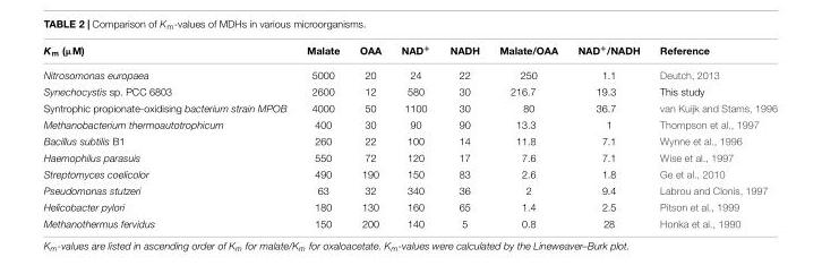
<table><thead><tr><td>K<sub>m</sub> (µM)</td><td>Malate</td><td>OAA</td><td>NAD<sup>+</sup></td><td>NADH</td><td>Malate/OAA</td><td>NAD<sup>+</sup>/NADH</td><td>Reference</td></tr></thead><tbody><tr><td>Nitrosomonas europaea</td><td>5000</td><td>20</td><td>24</td><td>22</td><td>250</td><td>1.1</td><td>Deutch, 2013</td></tr><tr><td>Synechocystis sp. PCC 6803</td><td>2600</td><td>12</td><td>580</td><td>30</td><td>216.7</td><td>19.3</td><td>This study</td></tr><tr><td>Syntrophic propionate-oxidising bacterium strain MPOB</td><td>4000</td><td>50</td><td>1100</td><td>30</td><td>80</td><td>36.7</td><td>van Kuijk and Stams, 1996</td></tr><tr><td>Methanobacterium thermoautotrophicum</td><td>400</td><td>30</td><td>90</td><td>90</td><td>13.3</td><td>1</td><td>Thompson et al., 1997</td></tr><tr><td>Bacillus subtilis B1</td><td>260</td><td>22</td><td>100</td><td>14</td><td>11.8</td><td>7.1</td><td>Wynne et al., 1996</td></tr><tr><td>Haemophilus parasuis</td><td>550</td><td>72</td><td>120</td><td>17</td><td>7.6</td><td>7.1</td><td>Wise et al., 1997</td></tr><tr><td>Streptomyces coelicolor</td><td>490</td><td>190</td><td>150</td><td>83</td><td>2.6</td><td>1.8</td><td>Ge et al., 2010</td></tr><tr><td>Pseudomonas stutzeri</td><td>63</td><td>32</td><td>340</td><td>36</td><td>2</td><td>9.4</td><td>Labrou and Clonis, 1997</td></tr><tr><td>Helicobacter pylori</td><td>180</td><td>130</td><td>160</td><td>65</td><td>1.4</td><td>2.5</td><td>Pitson et al., 1999</td></tr><tr><td>Methanothermus fervidus</td><td>150</td><td>200</td><td>140</td><td>5</td><td>0.8</td><td>28</td><td>Honka et al., 1990</td></tr></tbody></table>